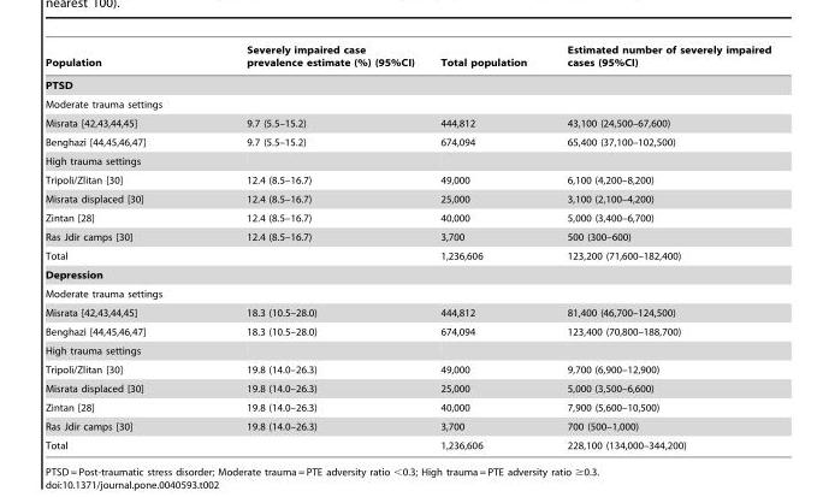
<table><thead><tr><td>Population</td><td>Severely impaired case prevalence estimate (%) (95%CI)</td><td>Total population</td><td>Estimated number of severely impaired cases (95%CI)</td></tr></thead><tbody><tr><td colspan="4">PTSD</td></tr><tr><td colspan="4">Moderate trauma settings</td></tr><tr><td>Misrata [42,43,44,45]</td><td>9.7 (5.5–15.2)</td><td>444,812</td><td>43,100 (24,500–67,600)</td></tr><tr><td>Benghazi [44,45,46,47]</td><td>9.7 (5.5–15.2)</td><td>674,094</td><td>65,400 (37,100–102,500)</td></tr><tr><td colspan="4">High trauma settings</td></tr><tr><td>Tripoli/Zlitan [30]</td><td>12.4 (8.5–16.7)</td><td>49,000</td><td>6,100 (4,200–8,200)</td></tr><tr><td>Misrata displaced [30]</td><td>12.4 (8.5–16.7)</td><td>25,000</td><td>3,100 (2,100–4,200)</td></tr><tr><td>Zintan [28]</td><td>12.4 (8.5–16.7)</td><td>40,000</td><td>5,000 (3,400–6,700)</td></tr><tr><td>Ras Jdir camps [30]</td><td>12.4 (8.5–16.7)</td><td>3,700</td><td>500 (300–600)</td></tr><tr><td>Total</td><td></td><td>1,236,606</td><td>123,200 (71,600–182,400)</td></tr><tr><td colspan="4">Depression</td></tr><tr><td colspan="4">Moderate trauma settings</td></tr><tr><td>Misrata [42,43,44,45]</td><td>18.3 (10.5–28.0)</td><td>444,812</td><td>81,400 (46,700–124,500)</td></tr><tr><td>Benghazi [44,45,46,47]</td><td>18.3 (10.5–28.0)</td><td>674,094</td><td>123,400 (70,800–188,700)</td></tr><tr><td colspan="4">High trauma settings</td></tr><tr><td>Tripoli/Zlitan [30]</td><td>19.8 (14.0–26.3)</td><td>49,000</td><td>9,700 (6,900–12,900)</td></tr><tr><td>Misrata displaced [30]</td><td>19.8 (14.0–26.3)</td><td>25,000</td><td>5,000 (3,500–6,600)</td></tr><tr><td>Zintan [28]</td><td>19.8 (14.0–26.3)</td><td>40,000</td><td>7,900 (5,600–10,500)</td></tr><tr><td>Ras Jdir camps [30]</td><td>19.8 (14.0–26.3)</td><td>3,700</td><td>700 (500–1,000)</td></tr><tr><td>Total</td><td></td><td>1,236,606</td><td>228,100 (134,000–344,200)</td></tr></tbody></table>